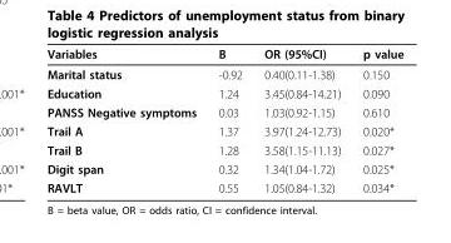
<table><thead><tr><td>Variables</td><td>B</td><td>OR (95%CI)</td><td>p value</td></tr></thead><tbody><tr><td>Marital status</td><td>-0.92</td><td>0.40(0.11-1.38)</td><td>0.150</td></tr><tr><td>Education</td><td>1.24</td><td>3.45(0.84-14.21)</td><td>0.090</td></tr><tr><td>PANSS Negative symptoms</td><td>0.03</td><td>1.03(0.92-1.15)</td><td>0.610</td></tr><tr><td>Trail A</td><td>1.37</td><td>3.97(1.24-12.73)</td><td>0.020*</td></tr><tr><td>Trail B</td><td>1.28</td><td>3.58(1.15-11.13)</td><td>0.027*</td></tr><tr><td>Digit span</td><td>0.32</td><td>1.34(1.04-1.72)</td><td>0.025*</td></tr><tr><td>RAVLT</td><td>0.55</td><td>1.05(0.84-1.32)</td><td>0.034*</td></tr></tbody></table>